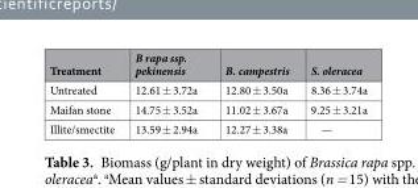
<table><thead><tr><td>Treatment</td><td>B rapa ssp. pekinensis</td><td>B. campestris</td><td>S. oleracea</td></tr></thead><tbody><tr><td>Untreated</td><td>12.61 ± 3.72a</td><td>12.80 ± 3.50a</td><td>8.36 ± 3.74a</td></tr><tr><td>Maifan stone</td><td>14.75 ± 3.52a</td><td>11.02 ± 3.67a</td><td>9.25 ± 3.21a</td></tr><tr><td>Illite/smectite</td><td>13.59 ± 2.94a</td><td>12.27 ± 3.38a</td><td>—</td></tr></tbody></table>